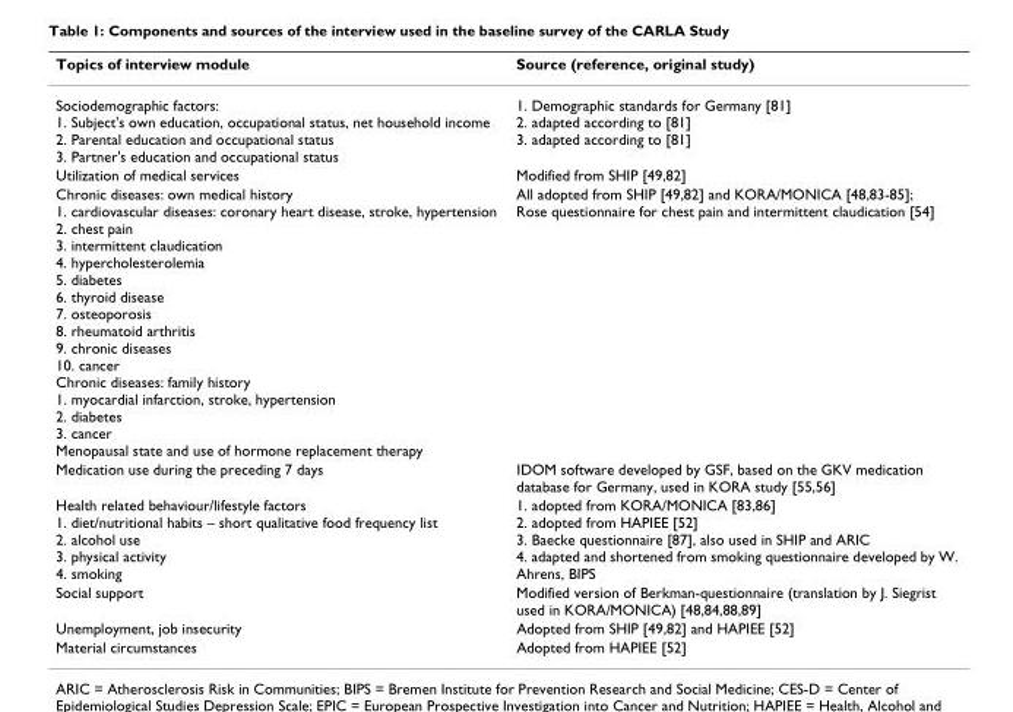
<table><thead><tr><td>Topics of interview module</td><td>Source (reference, original study)</td></tr></thead><tbody><tr><td>Sociodemographic factors: 1. Subject&#x27;s own education, occupational status, net household income 2. Parental education and occupational status 3. Partner&#x27;s education and occupational status</td><td>1. Demographic standards for Germany [81] 2. adapted according to [81] 3. adapted according to [81]</td></tr><tr><td>Utilization of medical services</td><td>Modified from SHIP [49,82]</td></tr><tr><td>Chronic diseases: own medical history 1. cardiovascular diseases: coronary heart disease, stroke, hypertension 2. chest pain 3. intermittent claudication 4. hypercholesterolemia 5. diabetes 6. thyroid disease 7. osteoporosis 8. rheumatoid arthritis 9. chronic diseases 10. cancer Chronic diseases: family history 1. myocardial infarction, stroke, hypertension 2. diabetes 3. cancer Menopausal state and use of hormone replacement therapy</td><td>All adopted from SHIP [49,82] and KORA/MONICA [48,83-85]; Rose questionnaire for chest pain and intermittent claudication [54]</td></tr><tr><td>Medication use during the preceding 7 days</td><td>IDOM software developed by GSF, based on the GKV medication database for Germany, used in KORA study [55,56]</td></tr><tr><td>Health related behaviour/lifestyle factors 1. diet/nutritional habits – short qualitative food frequency list 2. alcohol use 3. physical activity 4. smoking</td><td>1. adopted from KORA/MONICA [83,86] 2. adopted from HAPIEE [52] 3. Baecke questionnaire [87], also used in SHIP and ARIC 4. adapted and shortened from smoking questionnaire developed by W. Ahrens, BIPS</td></tr><tr><td>Social support</td><td>Modified version of Berkman-questionnaire (translation by J. Siegrist used in KORA/MONICA) [48,84,88,89]</td></tr><tr><td>Unemployment, job insecurity</td><td>Adopted from SHIP [49,82] and HAPIEE [52]</td></tr><tr><td>Material circumstances</td><td>Adopted from HAPIEE [52]</td></tr></tbody></table>